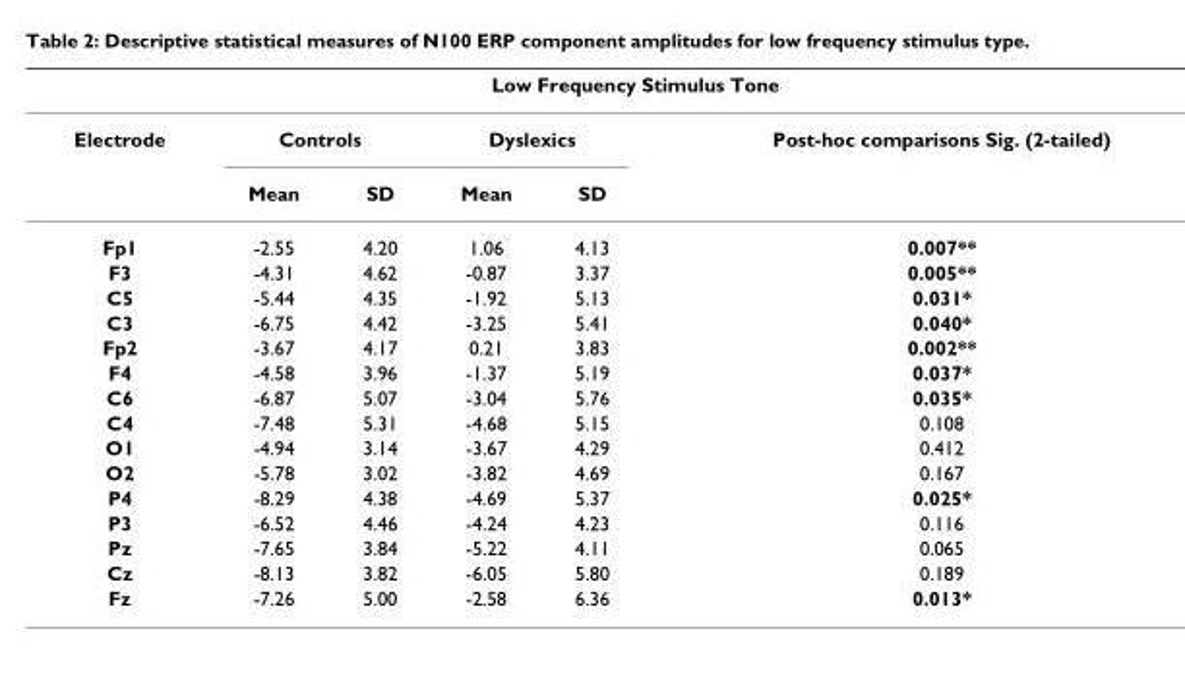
<table><thead><tr><td colspan="6">Low Frequency Stimulus Tone</td></tr><tr><td rowspan="2">Electrode</td><td colspan="2">Controls</td><td colspan="2">Dyslexics</td><td rowspan="2">Post-hoc comparisons Sig. (2-tailed)</td></tr><tr><td>Mean</td><td>SD</td><td>Mean</td><td>SD</td></tr></thead><tbody><tr><td>Fp1</td><td>-2.55</td><td>4.20</td><td>1.06</td><td>4.13</td><td>0.007**</td></tr><tr><td>F3</td><td>-4.31</td><td>4.62</td><td>-0.87</td><td>3.37</td><td>0.005**</td></tr><tr><td>C5</td><td>-5.44</td><td>4.35</td><td>-1.92</td><td>5.13</td><td>0.031*</td></tr><tr><td>C3</td><td>-6.75</td><td>4.42</td><td>-3.25</td><td>5.41</td><td>0.040*</td></tr><tr><td>Fp2</td><td>-3.67</td><td>4.17</td><td>0.21</td><td>3.83</td><td>0.002**</td></tr><tr><td>F4</td><td>-4.58</td><td>3.96</td><td>-1.37</td><td>5.19</td><td>0.037*</td></tr><tr><td>C6</td><td>-6.87</td><td>5.07</td><td>-3.04</td><td>5.76</td><td>0.035*</td></tr><tr><td>C4</td><td>-7.48</td><td>5.31</td><td>-4.68</td><td>5.15</td><td>0.108</td></tr><tr><td>O1</td><td>-4.94</td><td>3.14</td><td>-3.67</td><td>4.29</td><td>0.412</td></tr><tr><td>O2</td><td>-5.78</td><td>3.02</td><td>-3.82</td><td>4.69</td><td>0.167</td></tr><tr><td>P4</td><td>-8.29</td><td>4.38</td><td>-4.69</td><td>5.37</td><td>0.025*</td></tr><tr><td>P3</td><td>-6.52</td><td>4.46</td><td>-4.24</td><td>4.23</td><td>0.116</td></tr><tr><td>Pz</td><td>-7.65</td><td>3.84</td><td>-5.22</td><td>4.11</td><td>0.065</td></tr><tr><td>Cz</td><td>-8.13</td><td>3.82</td><td>-6.05</td><td>5.80</td><td>0.189</td></tr><tr><td>Fz</td><td>-7.26</td><td>5.00</td><td>-2.58</td><td>6.36</td><td>0.013*</td></tr></tbody></table>